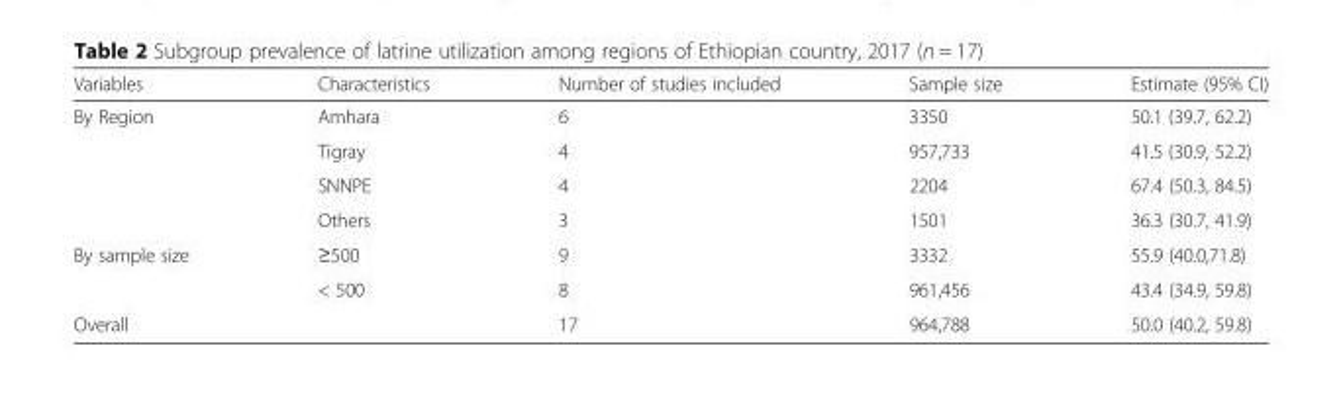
<table><thead><tr><td>Variables</td><td>Characteristics</td><td>Number of studies included</td><td>Sample size</td><td>Estimate (95% CI)</td></tr></thead><tbody><tr><td rowspan="4">By Region</td><td>Amhara</td><td>6</td><td>3350</td><td>50.1 (39.7, 62.2)</td></tr><tr><td>Tigray</td><td>4</td><td>957,733</td><td>41.5 (30.9, 52.2)</td></tr><tr><td>SNNPE</td><td>4</td><td>2204</td><td>67.4 (50.3, 84.5)</td></tr><tr><td>Others</td><td>3</td><td>1501</td><td>36.3 (30.7, 41.9)</td></tr><tr><td rowspan="2">By sample size</td><td>≥500</td><td>9</td><td>3332</td><td>55.9 (40.0,71.8)</td></tr><tr><td>&lt; 500</td><td>8</td><td>961,456</td><td>43.4 (34.9, 59.8)</td></tr><tr><td>Overall</td><td></td><td>17</td><td>964,788</td><td>50.0 (40.2, 59.8)</td></tr></tbody></table>